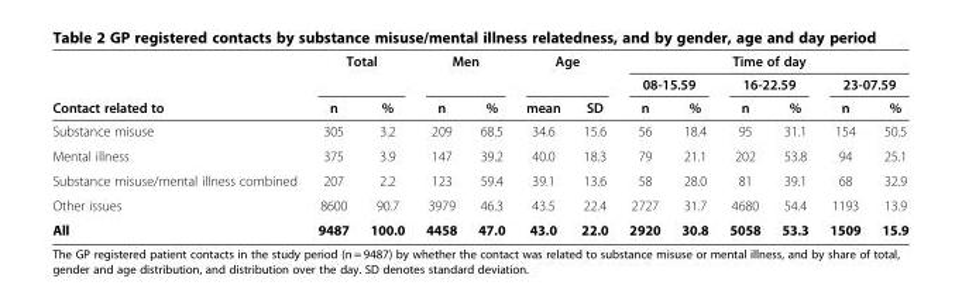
<table><thead><tr><td rowspan="3">Contact related to</td><td colspan="2">Total</td><td colspan="2">Men</td><td colspan="2">Age</td><td colspan="6">Time of day</td></tr><tr><td rowspan="2">n</td><td rowspan="2">%</td><td rowspan="2">n</td><td rowspan="2">%</td><td rowspan="2">mean</td><td rowspan="2">SD</td><td colspan="2">08-15.59</td><td colspan="2">16-22.59</td><td colspan="2">23-07.59</td></tr><tr><td>n</td><td>%</td><td>n</td><td>%</td><td>n</td><td>%</td></tr></thead><tbody><tr><td>Substance misuse</td><td>305</td><td>3.2</td><td>209</td><td>68.5</td><td>34.6</td><td>15.6</td><td>56</td><td>18.4</td><td>95</td><td>31.1</td><td>154</td><td>50.5</td></tr><tr><td>Mental illness</td><td>375</td><td>3.9</td><td>147</td><td>39.2</td><td>40.0</td><td>18.3</td><td>79</td><td>21.1</td><td>202</td><td>53.8</td><td>94</td><td>25.1</td></tr><tr><td>Substance misuse/mental illness combined</td><td>207</td><td>2.2</td><td>123</td><td>59.4</td><td>39.1</td><td>13.6</td><td>58</td><td>28.0</td><td>81</td><td>39.1</td><td>68</td><td>32.9</td></tr><tr><td>Other issues</td><td>8600</td><td>90.7</td><td>3979</td><td>46.3</td><td>43.5</td><td>22.4</td><td>2727</td><td>31.7</td><td>4680</td><td>54.4</td><td>1193</td><td>13.9</td></tr><tr><td>All</td><td>9487</td><td>100.0</td><td>4458</td><td>47.0</td><td>43.0</td><td>22.0</td><td>2920</td><td>30.8</td><td>5058</td><td>53.3</td><td>1509</td><td>15.9</td></tr></tbody></table>